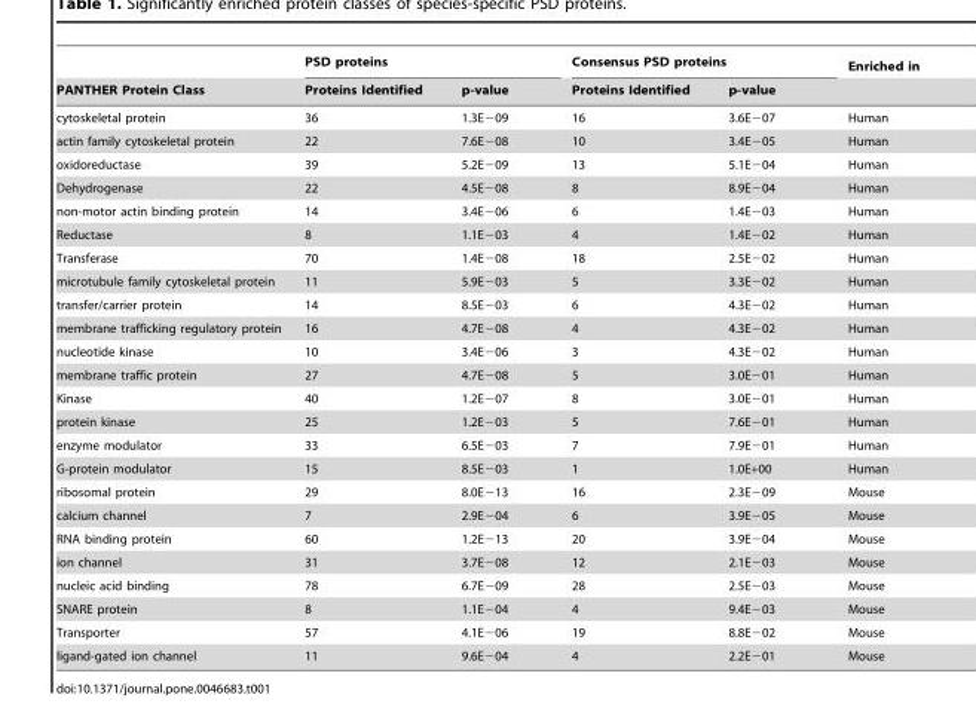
<table><thead><tr><td rowspan="2">PANTHER Protein Class</td><td colspan="2">PSD proteins</td><td colspan="2">Consensus PSD proteins</td><td rowspan="2">Enriched in</td></tr><tr><td>Proteins Identified</td><td>p-value</td><td>Proteins Identified</td><td>p-value</td></tr></thead><tbody><tr><td>cytoskeletal protein</td><td>36</td><td>1.3E−09</td><td>16</td><td>3.6E−07</td><td>Human</td></tr><tr><td>actin family cytoskeletal protein</td><td>22</td><td>7.6E−08</td><td>10</td><td>3.4E−05</td><td>Human</td></tr><tr><td>oxidoreductase</td><td>39</td><td>5.2E−09</td><td>13</td><td>5.1E−04</td><td>Human</td></tr><tr><td>Dehydrogenase</td><td>22</td><td>4.5E−08</td><td>8</td><td>8.9E−04</td><td>Human</td></tr><tr><td>non-motor actin binding protein</td><td>14</td><td>3.4E−06</td><td>6</td><td>1.4E−03</td><td>Human</td></tr><tr><td>Reductase</td><td>8</td><td>1.1E−03</td><td>4</td><td>1.4E−02</td><td>Human</td></tr><tr><td>Transferase</td><td>70</td><td>1.4E−08</td><td>18</td><td>2.5E−02</td><td>Human</td></tr><tr><td>microtubule family cytoskeletal protein</td><td>11</td><td>5.9E−03</td><td>5</td><td>3.3E−02</td><td>Human</td></tr><tr><td>transfer/carrier protein</td><td>14</td><td>8.5E−03</td><td>6</td><td>4.3E−02</td><td>Human</td></tr><tr><td>membrane trafficking regulatory protein</td><td>16</td><td>4.7E−08</td><td>4</td><td>4.3E−02</td><td>Human</td></tr><tr><td>nucleotide kinase</td><td>10</td><td>3.4E−06</td><td>3</td><td>4.3E−02</td><td>Human</td></tr><tr><td>membrane traffic protein</td><td>27</td><td>4.7E−08</td><td>5</td><td>3.0E−01</td><td>Human</td></tr><tr><td>Kinase</td><td>40</td><td>1.2E−07</td><td>8</td><td>3.0E−01</td><td>Human</td></tr><tr><td>protein kinase</td><td>25</td><td>1.2E−03</td><td>5</td><td>7.6E−01</td><td>Human</td></tr><tr><td>enzyme modulator</td><td>33</td><td>6.5E−03</td><td>7</td><td>7.9E−01</td><td>Human</td></tr><tr><td>G-protein modulator</td><td>15</td><td>8.5E−03</td><td>1</td><td>1.0E+00</td><td>Human</td></tr><tr><td>ribosomal protein</td><td>29</td><td>8.0E−13</td><td>16</td><td>2.3E−09</td><td>Mouse</td></tr><tr><td>calcium channel</td><td>7</td><td>2.9E−04</td><td>6</td><td>3.9E−05</td><td>Mouse</td></tr><tr><td>RNA binding protein</td><td>60</td><td>1.2E−13</td><td>20</td><td>3.9E−04</td><td>Mouse</td></tr><tr><td>ion channel</td><td>31</td><td>3.7E−08</td><td>12</td><td>2.1E−03</td><td>Mouse</td></tr><tr><td>nucleic acid binding</td><td>78</td><td>6.7E−09</td><td>28</td><td>2.5E−03</td><td>Mouse</td></tr><tr><td>SNARE protein</td><td>8</td><td>1.1E−04</td><td>4</td><td>9.4E−03</td><td>Mouse</td></tr><tr><td>Transporter</td><td>57</td><td>4.1E−06</td><td>19</td><td>8.8E−02</td><td>Mouse</td></tr><tr><td>ligand-gated ion channel</td><td>11</td><td>9.6E−04</td><td>4</td><td>2.2E−01</td><td>Mouse</td></tr></tbody></table>